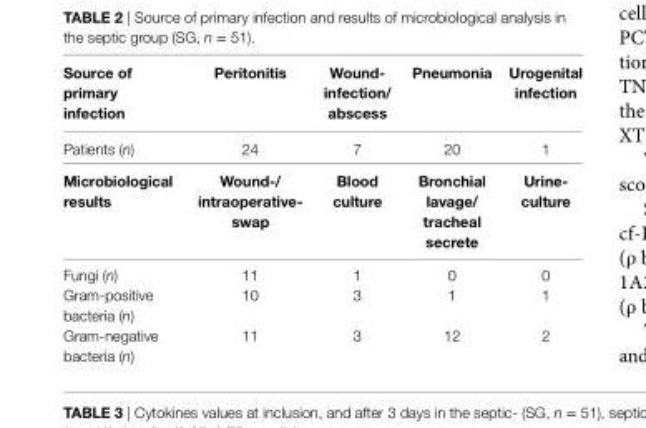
<table><thead><tr><td>source of primary infection</td><td>Peritonitis</td><td>Wound- infection/ abscess</td><td>Pneumonia</td><td>Urogenital infection</td></tr></thead><tbody><tr><td>Patients (n)</td><td>24</td><td>7</td><td>20</td><td>1</td></tr><tr><td>Microbiological results</td><td>Wound-/ intraoperative- swap</td><td>Blood culture</td><td>Bronchial lavage/ tracheal secrete</td><td>Urine- culture</td></tr><tr><td>Fungi (n)</td><td>11</td><td>1</td><td>0</td><td>0</td></tr><tr><td>Gram-positive bacteria (n)</td><td>10</td><td>3</td><td>1</td><td>1</td></tr><tr><td>Gram-negative bacteria (n)</td><td>11</td><td>3</td><td>12</td><td>2</td></tr></tbody></table>